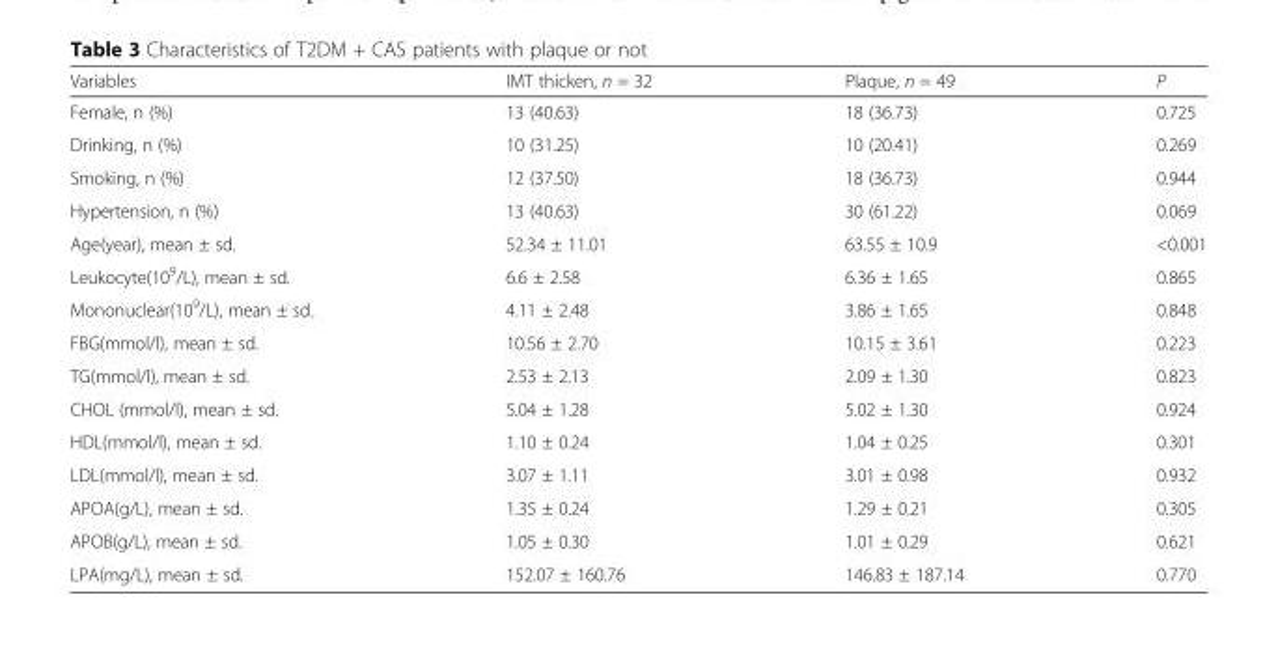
<table><thead><tr><td>Variables</td><td>IMT thicken, n = 32</td><td>Plaque, n = 49</td><td>P</td></tr></thead><tbody><tr><td>Female, n (%)</td><td>13 (40.63)</td><td>18 (36.73)</td><td>0.725</td></tr><tr><td>Drinking, n (%)</td><td>10 (31.25)</td><td>10 (20.41)</td><td>0.269</td></tr><tr><td>Smoking, n (%)</td><td>12 (37.50)</td><td>18 (36.73)</td><td>0.944</td></tr><tr><td>Hypertension, n (%)</td><td>13 (40.63)</td><td>30 (61.22)</td><td>0.069</td></tr><tr><td>Age(year), mean ± sd.</td><td>52.34 ± 11.01</td><td>63.55 ± 10.9</td><td>&lt;0.001</td></tr><tr><td>Leukocyte(10<sup>9</sup>/L), mean ± sd.</td><td>6.6 ± 2.58</td><td>6.36 ± 1.65</td><td>0.865</td></tr><tr><td>Mononuclear(10<sup>9</sup>/L), mean ± sd.</td><td>4.11 ± 2.48</td><td>3.86 ± 1.65</td><td>0.848</td></tr><tr><td>FBG(mmol/l), mean ± sd.</td><td>10.56 ± 2.70</td><td>10.15 ± 3.61</td><td>0.223</td></tr><tr><td>TG(mmol/l), mean ± sd.</td><td>2.53 ± 2.13</td><td>2.09 ± 1.30</td><td>0.823</td></tr><tr><td>CHOL (mmol/l), mean ± sd.</td><td>5.04 ± 1.28</td><td>5.02 ± 1.30</td><td>0.924</td></tr><tr><td>HDL(mmol/l), mean ± sd.</td><td>1.10 ± 0.24</td><td>1.04 ± 0.25</td><td>0.301</td></tr><tr><td>LDL(mmol/l), mean ± sd.</td><td>3.07 ± 1.11</td><td>3.01 ± 0.98</td><td>0.932</td></tr><tr><td>APOA(g/L), mean ± sd.</td><td>1.35 ± 0.24</td><td>1.29 ± 0.21</td><td>0.305</td></tr><tr><td>APOB(g/L), mean ± sd.</td><td>1.05 ± 0.30</td><td>1.01 ± 0.29</td><td>0.621</td></tr><tr><td>LPA(mg/L), mean ± sd.</td><td>152.07 ± 160.76</td><td>146.83 ± 187.14</td><td>0.770</td></tr></tbody></table>